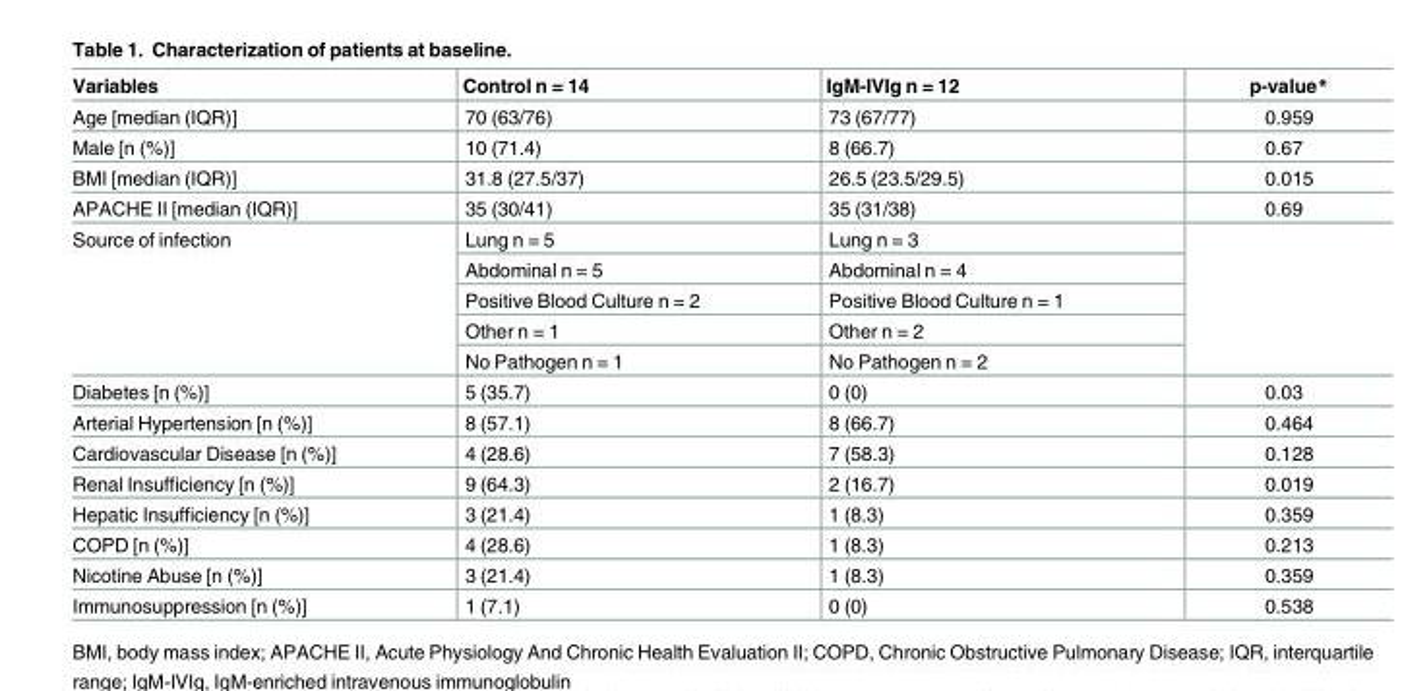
<table><thead><tr><td>Variables</td><td>Control n = 14</td><td>IgM-IVIg n = 12</td><td>p-value*</td></tr></thead><tbody><tr><td>Age [median (IQR)]</td><td>70 (63/76)</td><td>73 (67/77)</td><td>0.959</td></tr><tr><td>Male [n (%)]</td><td>10 (71.4)</td><td>8 (66.7)</td><td>0.67</td></tr><tr><td>BMI [median (IQR)]</td><td>31.8 (27.5/37)</td><td>26.5 (23.5/29.5)</td><td>0.015</td></tr><tr><td>APACHE II [median (IQR)]</td><td>35 (30/41)</td><td>35 (31/38)</td><td>0.69</td></tr><tr><td rowspan="5">Source of infection</td><td>Lung n = 5</td><td>Lung n = 3</td><td rowspan="5"></td></tr><tr><td>Abdominal n = 5</td><td>Abdominal n = 4</td></tr><tr><td>Positive Blood Culture n = 2</td><td>Positive Blood Culture n = 1</td></tr><tr><td>Other n = 1</td><td>Other n = 2</td></tr><tr><td>No Pathogen n = 1</td><td>No Pathogen n = 2</td></tr><tr><td>Diabetes [n (%)]</td><td>5 (35.7)</td><td>0 (0)</td><td>0.03</td></tr><tr><td>Arterial Hypertension [n (%)]</td><td>8 (57.1)</td><td>8 (66.7)</td><td>0.464</td></tr><tr><td>Cardiovascular Disease [n (%)]</td><td>4 (28.6)</td><td>7 (58.3)</td><td>0.128</td></tr><tr><td>Renal Insufficiency [n (%)]</td><td>9 (64.3)</td><td>2 (16.7)</td><td>0.019</td></tr><tr><td>Hepatic Insufficiency [n (%)]</td><td>3 (21.4)</td><td>1 (8.3)</td><td>0.359</td></tr><tr><td>COPD [n (%)]</td><td>4 (28.6)</td><td>1 (8.3)</td><td>0.213</td></tr><tr><td>Nicotine Abuse [n (%)]</td><td>3 (21.4)</td><td>1 (8.3)</td><td>0.359</td></tr><tr><td>Immunosuppression [n (%)]</td><td>1 (7.1)</td><td>0 (0)</td><td>0.538</td></tr></tbody></table>